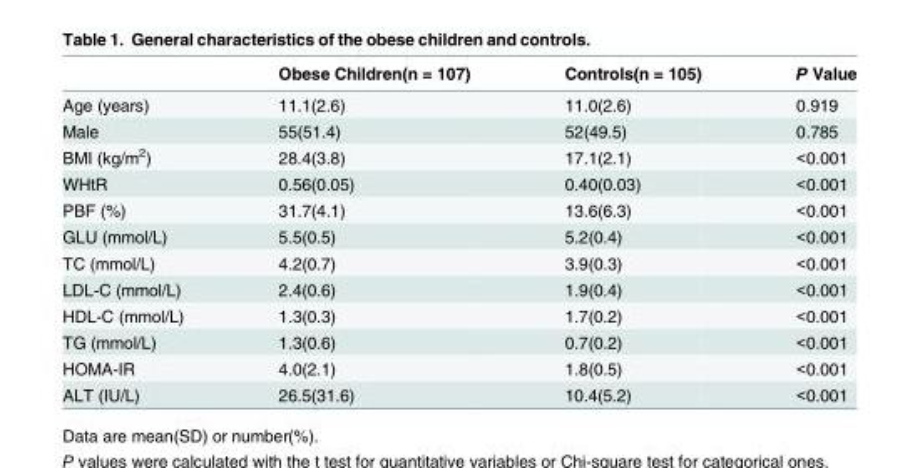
<table><thead><tr><td></td><td>Obese Children(n = 107)</td><td>Controls(n = 105)</td><td>P Value</td></tr></thead><tbody><tr><td>Age (years)</td><td>11.1(2.6)</td><td>11.0(2.6)</td><td>0.919</td></tr><tr><td>Male</td><td>55(51.4)</td><td>52(49.5)</td><td>0.785</td></tr><tr><td>BMI (kg/m<sup>2</sup>)</td><td>28.4(3.8)</td><td>17.1(2.1)</td><td>&lt;0.001</td></tr><tr><td>WHtR</td><td>0.56(0.05)</td><td>0.40(0.03)</td><td>&lt;0.001</td></tr><tr><td>PBF (%)</td><td>31.7(4.1)</td><td>13.6(6.3)</td><td>&lt;0.001</td></tr><tr><td>GLU (mmol/L)</td><td>5.5(0.5)</td><td>5.2(0.4)</td><td>&lt;0.001</td></tr><tr><td>TC (mmol/L)</td><td>4.2(0.7)</td><td>3.9(0.3)</td><td>&lt;0.001</td></tr><tr><td>LDL-C (mmol/L)</td><td>2.4(0.6)</td><td>1.9(0.4)</td><td>&lt;0.001</td></tr><tr><td>HDL-C (mmol/L)</td><td>1.3(0.3)</td><td>1.7(0.2)</td><td>&lt;0.001</td></tr><tr><td>TG (mmol/L)</td><td>1.3(0.6)</td><td>0.7(0.2)</td><td>&lt;0.001</td></tr><tr><td>HOMA-IR</td><td>4.0(2.1)</td><td>1.8(0.5)</td><td>&lt;0.001</td></tr><tr><td>ALT (IU/L)</td><td>26.5(31.6)</td><td>10.4(5.2)</td><td>&lt;0.001</td></tr></tbody></table>